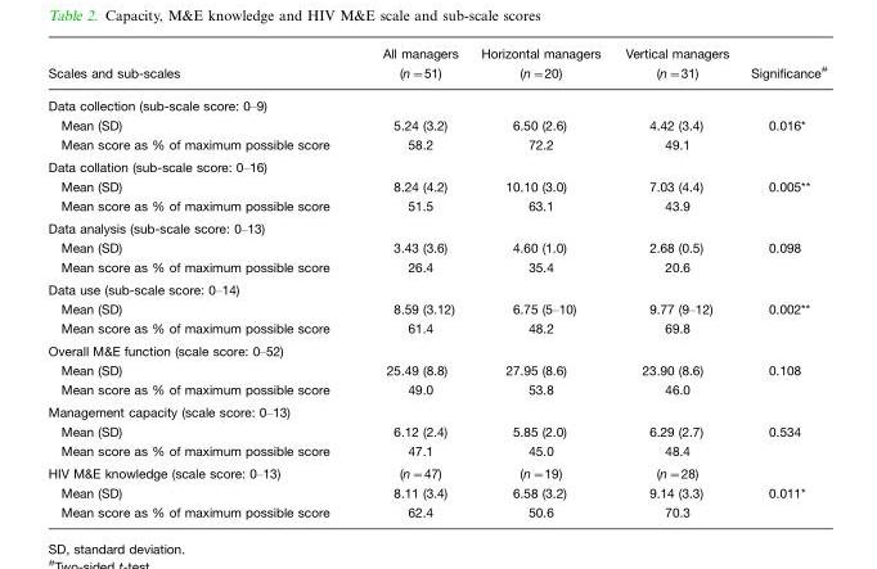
<table><thead><tr><td>Scales and sub-scales</td><td>All managers (n=51)</td><td>Horizontal managers (n=20)</td><td>Vertical managers (n=31)</td><td>Significance#</td></tr></thead><tbody><tr><td colspan="5">Data collection (sub-scale score: 0–9)</td></tr><tr><td>Mean (SD)</td><td>5.24 (3.2)</td><td>6.50 (2.6)</td><td>4.42 (3.4)</td><td>0.016*</td></tr><tr><td>Mean score as % of maximum possible score</td><td>58.2</td><td>72.2</td><td>49.1</td><td></td></tr><tr><td colspan="5">Data collation (sub-scale score: 0–16)</td></tr><tr><td>Mean (SD)</td><td>8.24 (4.2)</td><td>10.10 (3.0)</td><td>7.03 (4.4)</td><td>0.005**</td></tr><tr><td>Mean score as % of maximum possible score</td><td>51.5</td><td>63.1</td><td>43.9</td><td></td></tr><tr><td colspan="5">Data analysis (sub-scale score: 0–13)</td></tr><tr><td>Mean (SD)</td><td>3.43 (3.6)</td><td>4.60 (1.0)</td><td>2.68 (0.5)</td><td>0.098</td></tr><tr><td>Mean score as % of maximum possible score</td><td>26.4</td><td>35.4</td><td>20.6</td><td></td></tr><tr><td colspan="5">Data use (sub-scale score: 0–14)</td></tr><tr><td>Mean (SD)</td><td>8.59 (3.12)</td><td>6.75 (5–10)</td><td>9.77 (9–12)</td><td>0.002**</td></tr><tr><td>Mean score as % of maximum possible score</td><td>61.4</td><td>48.2</td><td>69.8</td><td></td></tr><tr><td colspan="5">Overall M&amp;E function (scale score: 0–52)</td></tr><tr><td>Mean (SD)</td><td>25.49 (8.8)</td><td>27.95 (8.6)</td><td>23.90 (8.6)</td><td>0.108</td></tr><tr><td>Mean score as % of maximum possible score</td><td>49.0</td><td>53.8</td><td>46.0</td><td></td></tr><tr><td colspan="5">Management capacity (scale score: 0–13)</td></tr><tr><td>Mean (SD)</td><td>6.12 (2.4)</td><td>5.85 (2.0)</td><td>6.29 (2.7)</td><td>0.534</td></tr><tr><td>Mean score as % of maximum possible score</td><td>47.1</td><td>45.0</td><td>48.4</td><td></td></tr><tr><td>HIV M&amp;E knowledge (scale score: 0–13)</td><td>(n=47)</td><td>(n=19)</td><td>(n=28)</td><td></td></tr><tr><td>Mean (SD)</td><td>8.11 (3.4)</td><td>6.58 (3.2)</td><td>9.14 (3.3)</td><td>0.011*</td></tr><tr><td>Mean score as % of maximum possible score</td><td>62.4</td><td>50.6</td><td>70.3</td><td></td></tr></tbody></table>